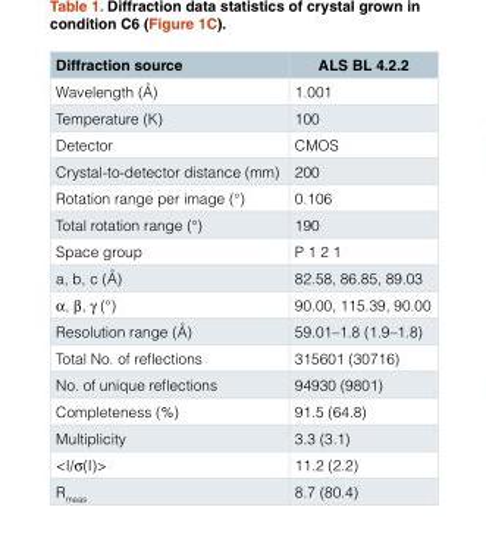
<table><thead><tr><td>Diffraction source</td><td>ALS BL 4.2.2</td></tr></thead><tbody><tr><td>Wavelength (Å)</td><td>1.001</td></tr><tr><td>Temperature (K)</td><td>100</td></tr><tr><td>Detector</td><td>CMOS</td></tr><tr><td>Crystal-to-detector distance (mm)</td><td>200</td></tr><tr><td>Rotation range per image (°)</td><td>0.106</td></tr><tr><td>Total rotation range (°)</td><td>190</td></tr><tr><td>Space group</td><td>P 1 2 1</td></tr><tr><td>a, b, c (Å)</td><td>82.58, 86.85, 89.03</td></tr><tr><td>α, β, γ (°)</td><td>90.00, 115.39, 90.00</td></tr><tr><td>Resolution range (Å)</td><td>59.01–1.8 (1.9–1.8)</td></tr><tr><td>Total No. of reflections</td><td>315601 (30716)</td></tr><tr><td>No. of unique reflections</td><td>94930 (9801)</td></tr><tr><td>Completeness (%)</td><td>91.5 (64.8)</td></tr><tr><td>Multiplicity</td><td>3.3 (3.1)</td></tr><tr><td>&lt;I/σ(I)&gt;</td><td>11.2 (2.2)</td></tr><tr><td>R<sub>meas</sub></td><td>8.7 (80.4)</td></tr></tbody></table>